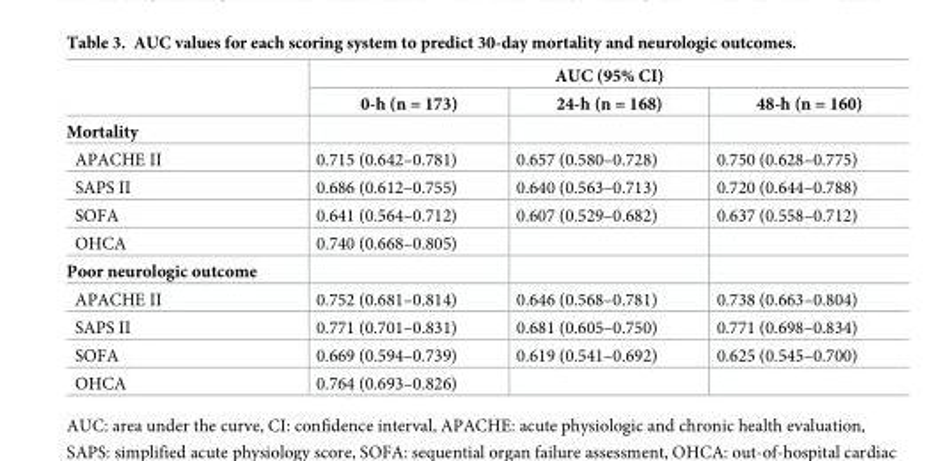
<table><thead><tr><td rowspan="2"></td><td colspan="3">AUC (95% CI)</td></tr><tr><td>0-h (n = 173)</td><td>24-h (n = 168)</td><td>48-h (n = 160)</td></tr></thead><tbody><tr><td colspan="4">Mortality</td></tr><tr><td>APACHE II</td><td>0.715 (0.642–0.781)</td><td>0.657 (0.580–0.728)</td><td>0.750 (0.628–0.775)</td></tr><tr><td>SAPS II</td><td>0.686 (0.612–0.755)</td><td>0.640 (0.563–0.713)</td><td>0.720 (0.644–0.788)</td></tr><tr><td>SOFA</td><td>0.641 (0.564–0.712)</td><td>0.607 (0.529–0.682)</td><td>0.637 (0.558–0.712)</td></tr><tr><td>OHCA</td><td>0.740 (0.668–0.805)</td><td></td><td></td></tr><tr><td colspan="4">Poor neurologic outcome</td></tr><tr><td>APACHE II</td><td>0.752 (0.681–0.814)</td><td>0.646 (0.568–0.781)</td><td>0.738 (0.663–0.804)</td></tr><tr><td>SAPS II</td><td>0.771 (0.701–0.831)</td><td>0.681 (0.605–0.750)</td><td>0.771 (0.698–0.834)</td></tr><tr><td>SOFA</td><td>0.669 (0.594–0.739)</td><td>0.619 (0.541–0.692)</td><td>0.625 (0.545–0.700)</td></tr><tr><td>OHCA</td><td>0.764 (0.693–0.826)</td><td></td><td></td></tr></tbody></table>